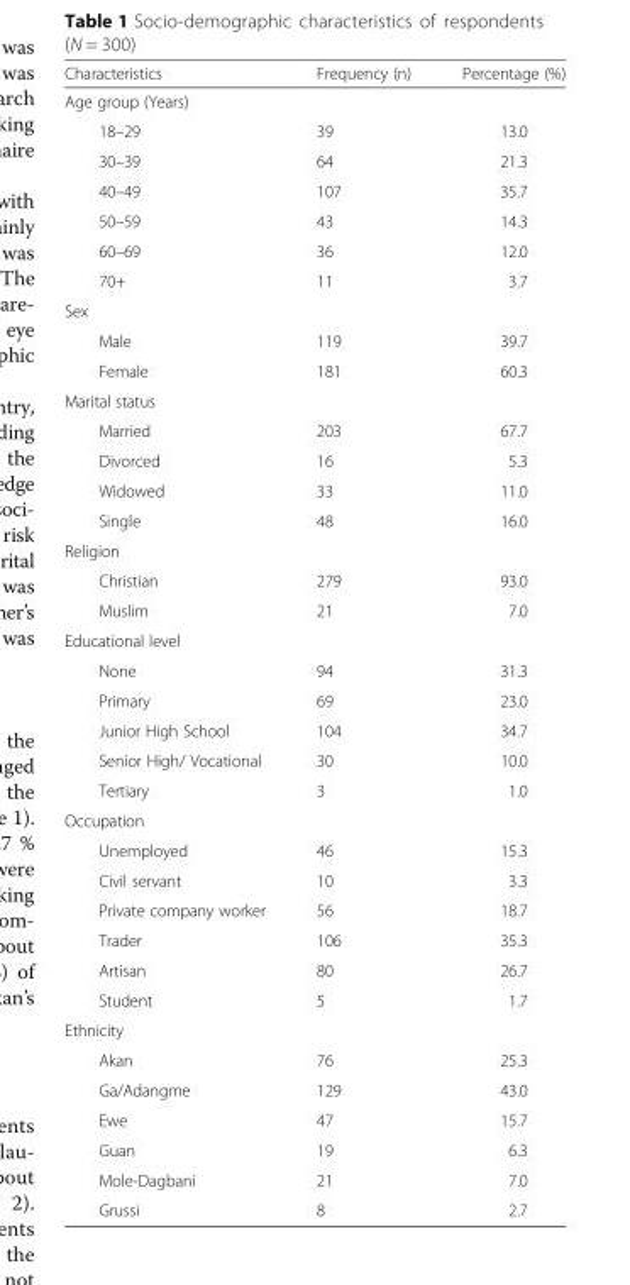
<table><thead><tr><td>Characteristics</td><td>Frequency (n)</td><td>Percentage (%)</td></tr></thead><tbody><tr><td colspan="3">Age group (Years)</td></tr><tr><td>18–29</td><td>39</td><td>13.0</td></tr><tr><td>30–39</td><td>64</td><td>21.3</td></tr><tr><td>40–49</td><td>107</td><td>35.7</td></tr><tr><td>50–59</td><td>43</td><td>14.3</td></tr><tr><td>60–69</td><td>36</td><td>12.0</td></tr><tr><td>70+</td><td>11</td><td>3.7</td></tr><tr><td colspan="3">Sex</td></tr><tr><td>Male</td><td>119</td><td>39.7</td></tr><tr><td>Female</td><td>181</td><td>60.3</td></tr><tr><td colspan="3">Marital status</td></tr><tr><td>Married</td><td>203</td><td>67.7</td></tr><tr><td>Divorced</td><td>16</td><td>5.3</td></tr><tr><td>Widowed</td><td>33</td><td>11.0</td></tr><tr><td>Single</td><td>48</td><td>16.0</td></tr><tr><td colspan="3">Religion</td></tr><tr><td>Christian</td><td>279</td><td>93.0</td></tr><tr><td>Muslim</td><td>21</td><td>7.0</td></tr><tr><td colspan="3">Educational level</td></tr><tr><td>None</td><td>94</td><td>31.3</td></tr><tr><td>Primary</td><td>69</td><td>23.0</td></tr><tr><td>Junior High School</td><td>104</td><td>34.7</td></tr><tr><td>Senior High/ Vocational</td><td>30</td><td>10.0</td></tr><tr><td>Tertiary</td><td>3</td><td>1.0</td></tr><tr><td colspan="3">Occupation</td></tr><tr><td>Unemployed</td><td>46</td><td>15.3</td></tr><tr><td>Civil servant</td><td>10</td><td>3.3</td></tr><tr><td>Private company worker</td><td>56</td><td>18.7</td></tr><tr><td>Trader</td><td>106</td><td>35.3</td></tr><tr><td>Artisan</td><td>80</td><td>26.7</td></tr><tr><td>Student</td><td>5</td><td>1.7</td></tr><tr><td colspan="3">Ethnicity</td></tr><tr><td>Akan</td><td>76</td><td>25.3</td></tr><tr><td>Ga/Adangme</td><td>129</td><td>43.0</td></tr><tr><td>Ewe</td><td>47</td><td>15.7</td></tr><tr><td>Guan</td><td>19</td><td>6.3</td></tr><tr><td>Mole-Dagbani</td><td>21</td><td>7.0</td></tr><tr><td>Grussi</td><td>8</td><td>2.7</td></tr></tbody></table>